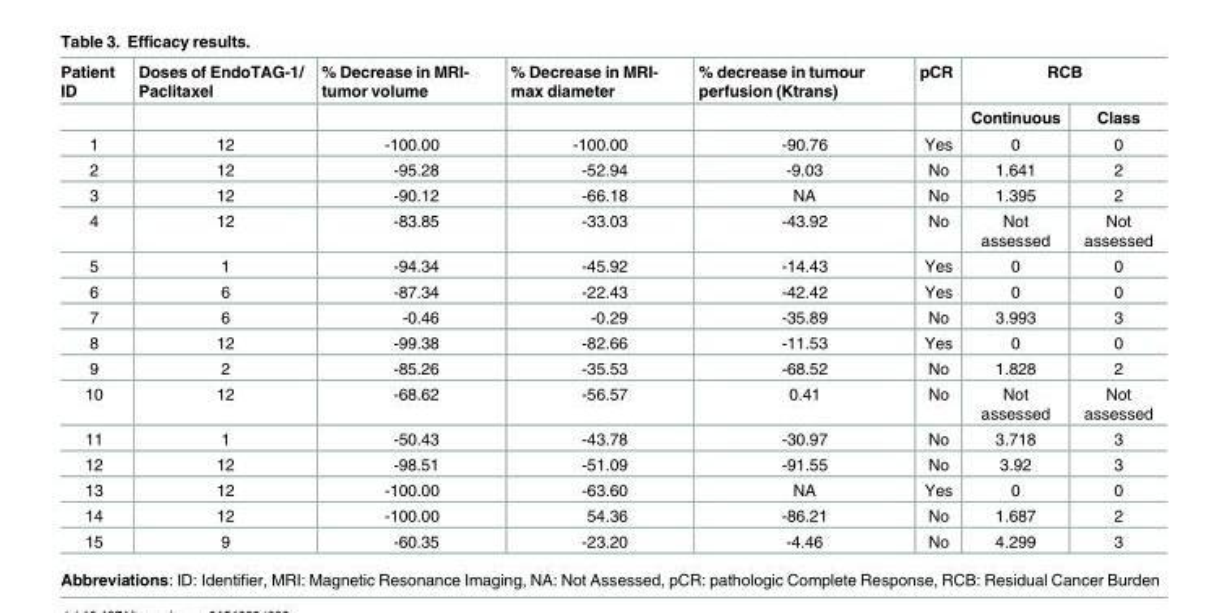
<table><thead><tr><td rowspan="2">Patient ID</td><td rowspan="2">Doses of EndoTAG-1/ Paclitaxel</td><td rowspan="2">% Decrease in MRI- tumor volume</td><td rowspan="2">% Decrease in MRI- max diameter</td><td rowspan="2">% decrease in tumour perfusion (Ktrans)</td><td rowspan="2">pCR</td><td colspan="2">RCB</td></tr><tr><td>Continuous</td><td>Class</td></tr></thead><tbody><tr><td>1</td><td>12</td><td>-100.00</td><td>-100.00</td><td>-90.76</td><td>Yes</td><td>0</td><td>0</td></tr><tr><td>2</td><td>12</td><td>-95.28</td><td>-52.94</td><td>-9.03</td><td>No</td><td>1.641</td><td>2</td></tr><tr><td>3</td><td>12</td><td>-90.12</td><td>-66.18</td><td>NA</td><td>No</td><td>1.395</td><td>2</td></tr><tr><td>4</td><td>12</td><td>-83.85</td><td>-33.03</td><td>-43.92</td><td>No</td><td>Not assessed</td><td>Not assessed</td></tr><tr><td>5</td><td>1</td><td>-94.34</td><td>-45.92</td><td>-14.43</td><td>Yes</td><td>0</td><td>0</td></tr><tr><td>6</td><td>6</td><td>-87.34</td><td>-22.43</td><td>-42.42</td><td>Yes</td><td>0</td><td>0</td></tr><tr><td>7</td><td>6</td><td>-0.46</td><td>-0.29</td><td>-35.89</td><td>No</td><td>3.993</td><td>3</td></tr><tr><td>8</td><td>12</td><td>-99.38</td><td>-82.66</td><td>-11.53</td><td>Yes</td><td>0</td><td>0</td></tr><tr><td>9</td><td>2</td><td>-85.26</td><td>-35.53</td><td>-68.52</td><td>No</td><td>1.828</td><td>2</td></tr><tr><td>10</td><td>12</td><td>-68.62</td><td>-56.57</td><td>0.41</td><td>No</td><td>Not assessed</td><td>Not assessed</td></tr><tr><td>11</td><td>1</td><td>-50.43</td><td>-43.78</td><td>-30.97</td><td>No</td><td>3.718</td><td>3</td></tr><tr><td>12</td><td>12</td><td>-98.51</td><td>-51.09</td><td>-91.55</td><td>No</td><td>3.92</td><td>3</td></tr><tr><td>13</td><td>12</td><td>-100.00</td><td>-63.60</td><td>NA</td><td>Yes</td><td>0</td><td>0</td></tr><tr><td>14</td><td>12</td><td>-100.00</td><td>54.36</td><td>-86.21</td><td>No</td><td>1.687</td><td>2</td></tr><tr><td>15</td><td>9</td><td>-60.35</td><td>-23.20</td><td>-4.46</td><td>No</td><td>4.299</td><td>3</td></tr></tbody></table>